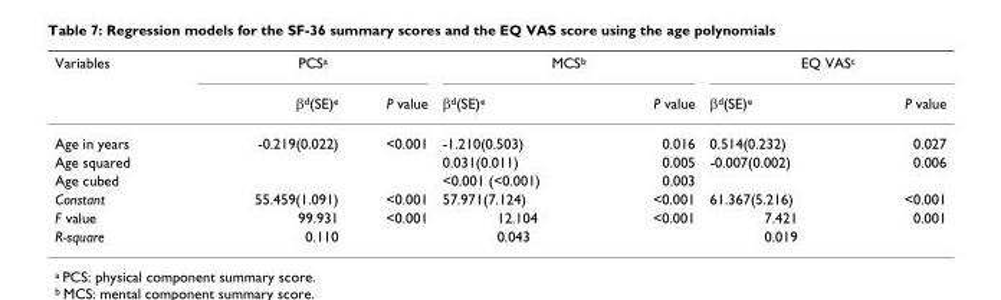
<table><thead><tr><td rowspan="2">Variables</td><td colspan="2">PCS<sup>a</sup></td><td colspan="2">MCS<sup>b</sup></td><td colspan="2">EQ VAS<sup>c</sup></td></tr><tr><td>β<sup>d</sup>(SE)<sup>e</sup></td><td>P value</td><td>β<sup>d</sup>(SE)<sup>e</sup></td><td>P value</td><td>β<sup>d</sup>(SE)<sup>e</sup></td><td>P value</td></tr></thead><tbody><tr><td>Age in years</td><td>-0.219(0.022)</td><td>&lt;0.001</td><td>-1.210(0.503)</td><td>0.016</td><td>0.514(0.232)</td><td>0.027</td></tr><tr><td>Age squared</td><td></td><td></td><td>0.031(0.011)</td><td>0.005</td><td>-0.007(0.002)</td><td>0.006</td></tr><tr><td>Age cubed</td><td></td><td></td><td>&lt;0.001 (&lt;0.001)</td><td>0.003</td><td></td><td></td></tr><tr><td>Constant</td><td>55.459(1.091)</td><td>&lt;0.001</td><td>57.971(7.124)</td><td>&lt;0.001</td><td>61.367(5.216)</td><td>&lt;0.001</td></tr><tr><td>F value</td><td>99.931</td><td>&lt;0.001</td><td>12.104</td><td>&lt;0.001</td><td>7.421</td><td>0.001</td></tr><tr><td>R-square</td><td>0.110</td><td></td><td>0.043</td><td></td><td>0.019</td><td></td></tr></tbody></table>